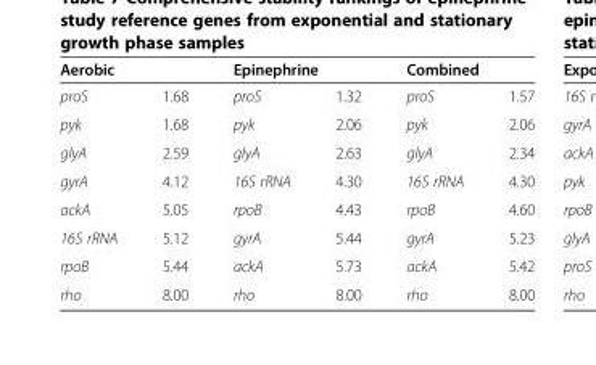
<table><thead><tr><td colspan="2">Aerobic</td><td colspan="2">Epinephrine</td><td colspan="2">Combined</td></tr><tr><td>proS</td><td>1.68</td><td>proS</td><td>1.32</td><td>proS</td><td>1.57</td></tr></thead><tbody><tr><td>pyk</td><td>1.68</td><td>pyk</td><td>2.06</td><td>pyk</td><td>2.06</td></tr><tr><td>glyA</td><td>2.59</td><td>glyA</td><td>2.63</td><td>glyA</td><td>2.34</td></tr><tr><td>gyrA</td><td>4.12</td><td>16S rRNA</td><td>4.30</td><td>16S rRNA</td><td>4.30</td></tr><tr><td>ackA</td><td>5.05</td><td>rpoB</td><td>4.43</td><td>rpoB</td><td>4.60</td></tr><tr><td>16S rRNA</td><td>5.12</td><td>gyrA</td><td>5.44</td><td>gyrA</td><td>5.23</td></tr><tr><td>rpoB</td><td>5.44</td><td>ackA</td><td>5.73</td><td>ackA</td><td>5.42</td></tr><tr><td>rho</td><td>8.00</td><td>rho</td><td>8.00</td><td>rho</td><td>8.00</td></tr></tbody></table>